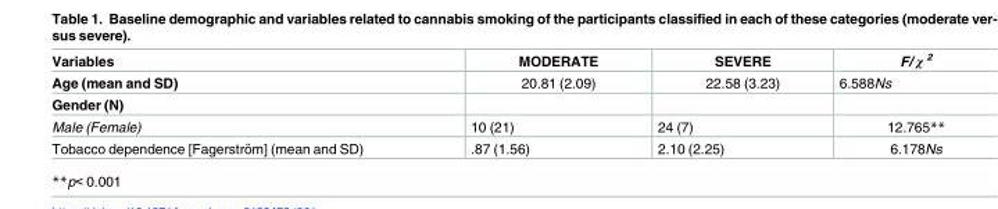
<table><thead><tr><td>Variables</td><td>MODERATE</td><td>SEVERE</td><td>F/ χ <sup>2</sup></td></tr></thead><tbody><tr><td>Age (mean and SD)</td><td>20.81 (2.09)</td><td>22.58 (3.23)</td><td>6.588Ns</td></tr><tr><td colspan="4">Gender (N)</td></tr><tr><td>Male (Female)</td><td>10 (21)</td><td>24 (7)</td><td>12.765**</td></tr><tr><td>Tobacco dependence [Fagerstro¨m] (mean and SD)</td><td>.87 (1.56)</td><td>2.10 (2.25)</td><td>6.178Ns</td></tr></tbody></table>